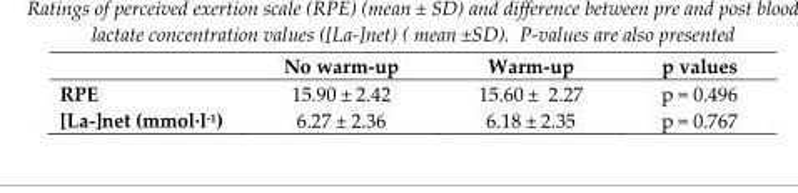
<table><thead><tr><td></td><td>No warm-up</td><td>Warm-up</td><td>p values</td></tr></thead><tbody><tr><td>RPE</td><td>15.90 ± 2.42</td><td>15.60 ± 2.27</td><td>p = 0.496</td></tr><tr><td>[La-]net (mmol·l<sup>-1</sup>)</td><td>6.27 ± 2.36</td><td>6.18 ± 2.35</td><td>p = 0.767</td></tr></tbody></table>